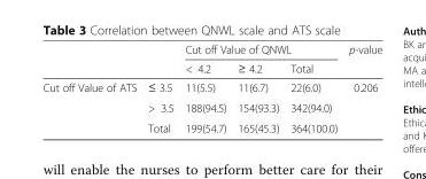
<table><thead><tr><td rowspan="2"></td><td rowspan="2"></td><td colspan="3">Cut off Value of QNWL</td><td rowspan="2">p-value</td></tr><tr><td>&lt; 4.2</td><td>≥ 4.2</td><td>Total</td></tr></thead><tbody><tr><td rowspan="3">Cut off Value of ATS</td><td>≤ 3.5</td><td>11(5.5)</td><td>11(6.7)</td><td>22(6.0)</td><td rowspan="3">0.206</td></tr><tr><td>&gt; 3.5</td><td>188(94.5)</td><td>154(93.3)</td><td>342(94.0)</td></tr><tr><td>Total</td><td>199(54.7)</td><td>165(45.3)</td><td>364(100.0)</td></tr></tbody></table>